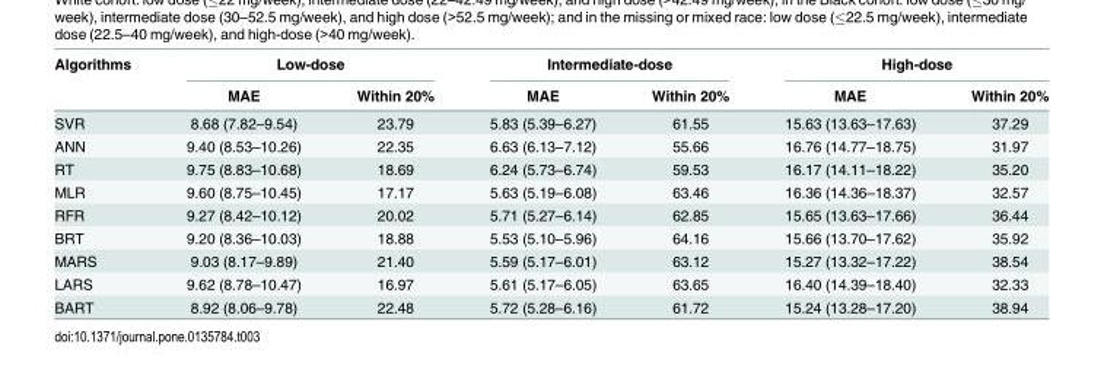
<table><thead><tr><td rowspan="2">Algorithms</td><td colspan="2">Low-dose</td><td colspan="2">Intermediate-dose</td><td colspan="2">High-dose</td></tr><tr><td>MAE</td><td>Within 20%</td><td>MAE</td><td>Within 20%</td><td>MAE</td><td>Within 20%</td></tr></thead><tbody><tr><td>SVR</td><td>8.68 (7.82–9.54)</td><td>23.79</td><td>5.83 (5.39–6.27)</td><td>61.55</td><td>15.63 (13.63–17.63)</td><td>37.29</td></tr><tr><td>ANN</td><td>9.40 (8.53–10.26)</td><td>22.35</td><td>6.63 (6.13–7.12)</td><td>55.66</td><td>16.76 (14.77–18.75)</td><td>31.97</td></tr><tr><td>RT</td><td>9.75 (8.83–10.68)</td><td>18.69</td><td>6.24 (5.73–6.74)</td><td>59.53</td><td>16.17 (14.11–18.22)</td><td>35.20</td></tr><tr><td>MLR</td><td>9.60 (8.75–10.45)</td><td>17.17</td><td>5.63 (5.19–6.08)</td><td>63.46</td><td>16.36 (14.36–18.37)</td><td>32.57</td></tr><tr><td>RFR</td><td>9.27 (8.42–10.12)</td><td>20.02</td><td>5.71 (5.27–6.14)</td><td>62.85</td><td>15.65 (13.63–17.66)</td><td>36.44</td></tr><tr><td>BRT</td><td>9.20 (8.36–10.03)</td><td>18.88</td><td>5.53 (5.10–5.96)</td><td>64.16</td><td>15.66 (13.70–17.62)</td><td>35.92</td></tr><tr><td>MARS</td><td>9.03 (8.17–9.89)</td><td>21.40</td><td>5.59 (5.17–6.01)</td><td>63.12</td><td>15.27 (13.32–17.22)</td><td>38.54</td></tr><tr><td>LARS</td><td>9.62 (8.78–10.47)</td><td>16.97</td><td>5.61 (5.17–6.05)</td><td>63.65</td><td>16.40 (14.39–18.40)</td><td>32.33</td></tr><tr><td>BART</td><td>8.92 (8.06–9.78)</td><td>22.48</td><td>5.72 (5.28–6.16)</td><td>61.72</td><td>15.24 (13.28–17.20)</td><td>38.94</td></tr></tbody></table>